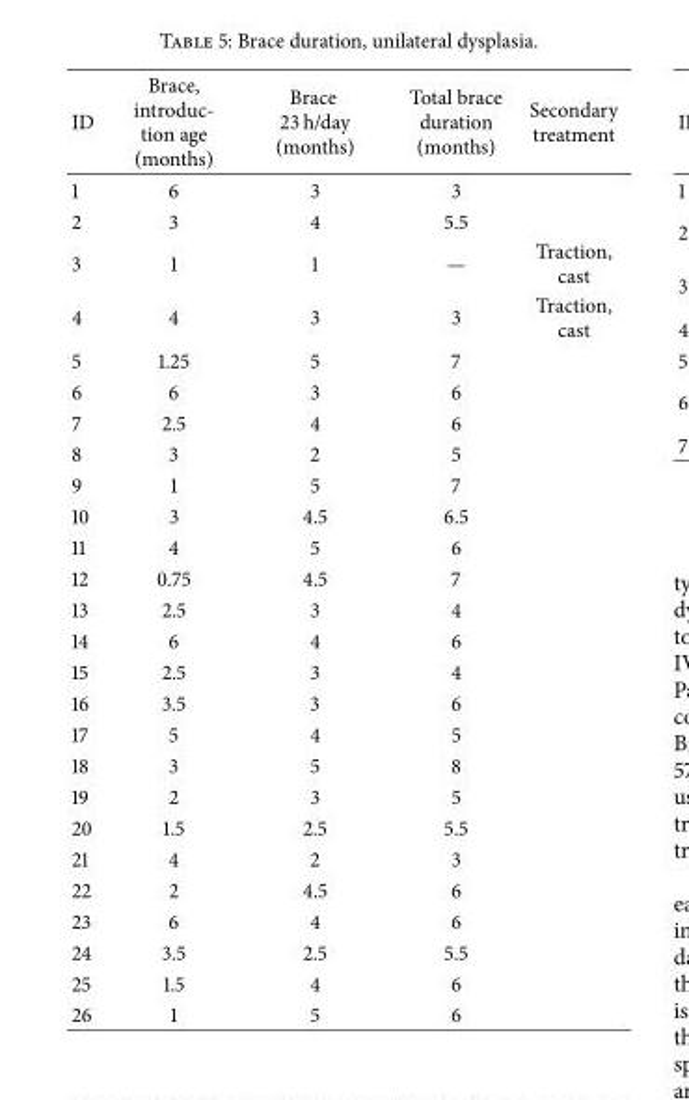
<table><thead><tr><td>ID</td><td>Brace, introduc- tion age (months)</td><td>Brace 23 h/day (months)</td><td>Total brace duration (months)</td><td>Secondary treatment</td></tr></thead><tbody><tr><td>1</td><td>6</td><td>3</td><td>3</td><td></td></tr><tr><td>2</td><td>3</td><td>4</td><td>5.5</td><td></td></tr><tr><td>3</td><td>1</td><td>1</td><td>—</td><td>Traction, cast</td></tr><tr><td>4</td><td>4</td><td>3</td><td>3</td><td>Traction, cast</td></tr><tr><td>5</td><td>1.25</td><td>5</td><td>7</td><td></td></tr><tr><td>6</td><td>6</td><td>3</td><td>6</td><td></td></tr><tr><td>7</td><td>2.5</td><td>4</td><td>6</td><td></td></tr><tr><td>8</td><td>3</td><td>2</td><td>5</td><td></td></tr><tr><td>9</td><td>1</td><td>5</td><td>7</td><td></td></tr><tr><td>10</td><td>3</td><td>4.5</td><td>6.5</td><td></td></tr><tr><td>11</td><td>4</td><td>5</td><td>6</td><td></td></tr><tr><td>12</td><td>0.75</td><td>4.5</td><td>7</td><td></td></tr><tr><td>13</td><td>2.5</td><td>3</td><td>4</td><td></td></tr><tr><td>14</td><td>6</td><td>4</td><td>6</td><td></td></tr><tr><td>15</td><td>2.5</td><td>3</td><td>4</td><td></td></tr><tr><td>16</td><td>3.5</td><td>3</td><td>6</td><td></td></tr><tr><td>17</td><td>5</td><td>4</td><td>5</td><td></td></tr><tr><td>18</td><td>3</td><td>5</td><td>8</td><td></td></tr><tr><td>19</td><td>2</td><td>3</td><td>5</td><td></td></tr><tr><td>20</td><td>1.5</td><td>2.5</td><td>5.5</td><td></td></tr><tr><td>21</td><td>4</td><td>2</td><td>3</td><td></td></tr><tr><td>22</td><td>2</td><td>4.5</td><td>6</td><td></td></tr><tr><td>23</td><td>6</td><td>4</td><td>6</td><td></td></tr><tr><td>24</td><td>3.5</td><td>2.5</td><td>5.5</td><td></td></tr><tr><td>25</td><td>1.5</td><td>4</td><td>6</td><td></td></tr><tr><td>26</td><td>1</td><td>5</td><td>6</td><td></td></tr></tbody></table>